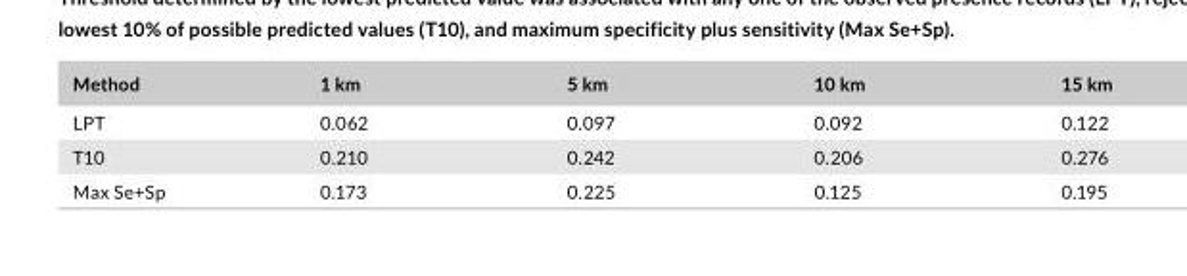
<table><thead><tr><td>Method</td><td>1 km</td><td>5 km</td><td>10 km</td><td>15 km</td></tr></thead><tbody><tr><td>LPT</td><td>0.062</td><td>0.097</td><td>0.092</td><td>0.122</td></tr><tr><td>T10</td><td>0.210</td><td>0.242</td><td>0.206</td><td>0.276</td></tr><tr><td>Max Se+Sp</td><td>0.173</td><td>0.225</td><td>0.125</td><td>0.195</td></tr></tbody></table>